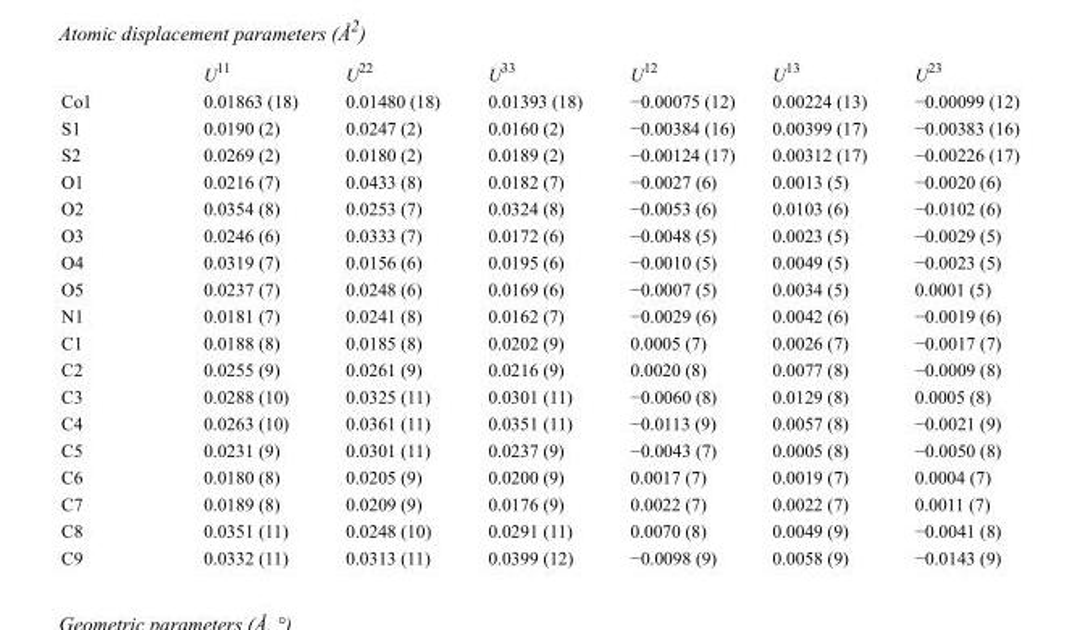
<table><thead><tr><td></td><td>U<sup>11</sup></td><td>U<sup>22</sup></td><td>U<sup>33</sup></td><td>U<sup>12</sup></td><td>U<sup>13</sup></td><td>U<sup>23</sup></td></tr></thead><tbody><tr><td>Co1</td><td>0.01863 (18)</td><td>0.01480 (18)</td><td>0.01393 (18)</td><td>−0.00075 (12)</td><td>0.00224 (13)</td><td>−0.00099 (12)</td></tr><tr><td>S1</td><td>0.0190 (2)</td><td>0.0247 (2)</td><td>0.0160 (2)</td><td>−0.00384 (16)</td><td>0.00399 (17)</td><td>−0.00383 (16)</td></tr><tr><td>S2</td><td>0.0269 (2)</td><td>0.0180 (2)</td><td>0.0189 (2)</td><td>−0.00124 (17)</td><td>0.00312 (17)</td><td>−0.00226 (17)</td></tr><tr><td>O1</td><td>0.0216 (7)</td><td>0.0433 (8)</td><td>0.0182 (7)</td><td>−0.0027 (6)</td><td>0.0013 (5)</td><td>−0.0020 (6)</td></tr><tr><td>O2</td><td>0.0354 (8)</td><td>0.0253 (7)</td><td>0.0324 (8)</td><td>−0.0053 (6)</td><td>0.0103 (6)</td><td>−0.0102 (6)</td></tr><tr><td>O3</td><td>0.0246 (6)</td><td>0.0333 (7)</td><td>0.0172 (6)</td><td>−0.0048 (5)</td><td>0.0023 (5)</td><td>−0.0029 (5)</td></tr><tr><td>O4</td><td>0.0319 (7)</td><td>0.0156 (6)</td><td>0.0195 (6)</td><td>−0.0010 (5)</td><td>0.0049 (5)</td><td>−0.0023 (5)</td></tr><tr><td>O5</td><td>0.0237 (7)</td><td>0.0248 (6)</td><td>0.0169 (6)</td><td>−0.0007 (5)</td><td>0.0034 (5)</td><td>0.0001 (5)</td></tr><tr><td>N1</td><td>0.0181 (7)</td><td>0.0241 (8)</td><td>0.0162 (7)</td><td>−0.0029 (6)</td><td>0.0042 (6)</td><td>−0.0019 (6)</td></tr><tr><td>C1</td><td>0.0188 (8)</td><td>0.0185 (8)</td><td>0.0202 (9)</td><td>0.0005 (7)</td><td>0.0026 (7)</td><td>−0.0017 (7)</td></tr><tr><td>C2</td><td>0.0255 (9)</td><td>0.0261 (9)</td><td>0.0216 (9)</td><td>0.0020 (8)</td><td>0.0077 (8)</td><td>−0.0009 (8)</td></tr><tr><td>C3</td><td>0.0288 (10)</td><td>0.0325 (11)</td><td>0.0301 (11)</td><td>−0.0060 (8)</td><td>0.0129 (8)</td><td>0.0005 (8)</td></tr><tr><td>C4</td><td>0.0263 (10)</td><td>0.0361 (11)</td><td>0.0351 (11)</td><td>−0.0113 (9)</td><td>0.0057 (8)</td><td>−0.0021 (9)</td></tr><tr><td>C5</td><td>0.0231 (9)</td><td>0.0301 (11)</td><td>0.0237 (9)</td><td>−0.0043 (7)</td><td>0.0005 (8)</td><td>−0.0050 (8)</td></tr><tr><td>C6</td><td>0.0180 (8)</td><td>0.0205 (9)</td><td>0.0200 (9)</td><td>0.0017 (7)</td><td>0.0019 (7)</td><td>0.0004 (7)</td></tr><tr><td>C7</td><td>0.0189 (8)</td><td>0.0209 (9)</td><td>0.0176 (9)</td><td>0.0022 (7)</td><td>0.0022 (7)</td><td>0.0011 (7)</td></tr><tr><td>C8</td><td>0.0351 (11)</td><td>0.0248 (10)</td><td>0.0291 (11)</td><td>0.0070 (8)</td><td>0.0049 (9)</td><td>−0.0041 (8)</td></tr><tr><td>C9</td><td>0.0332 (11)</td><td>0.0313 (11)</td><td>0.0399 (12)</td><td>−0.0098 (9)</td><td>0.0058 (9)</td><td>−0.0143 (9)</td></tr></tbody></table>